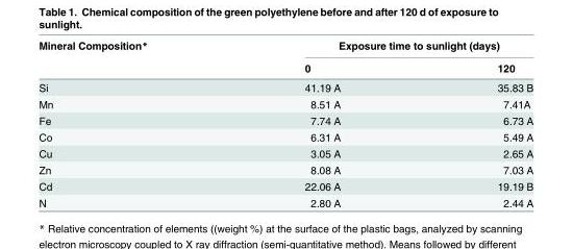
<table><thead><tr><td rowspan="2">Mineral Composition*</td><td colspan="2">Exposure time to sunlight (days)</td></tr><tr><td>0</td><td>120</td></tr></thead><tbody><tr><td>Si</td><td>41.19 A</td><td>35.83 B</td></tr><tr><td>Mn</td><td>8.51 A</td><td>7.41A</td></tr><tr><td>Fe</td><td>7.74 A</td><td>6.73 A</td></tr><tr><td>Co</td><td>6.31 A</td><td>5.49 A</td></tr><tr><td>Cu</td><td>3.05 A</td><td>2.65 A</td></tr><tr><td>Zn</td><td>8.08 A</td><td>7.03 A</td></tr><tr><td>Cd</td><td>22.06 A</td><td>19.19 B</td></tr><tr><td>N</td><td>2.80 A</td><td>2.44 A</td></tr></tbody></table>